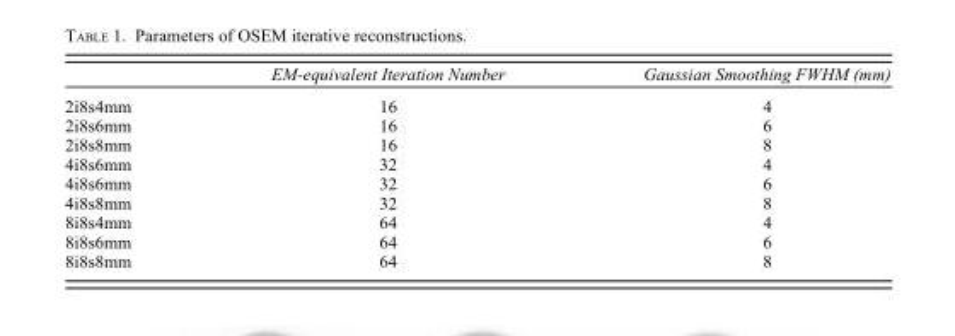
<table><thead><tr><td></td><td>EM-equivalent Iteration Number</td><td>Gaussian Smoothing FWHM (mm)</td></tr></thead><tbody><tr><td>2i8s4mm</td><td>16</td><td>4</td></tr><tr><td>2i8s6mm</td><td>16</td><td>6</td></tr><tr><td>2i8s8mm</td><td>16</td><td>8</td></tr><tr><td>4i8s6mm</td><td>32</td><td>4</td></tr><tr><td>4i8s6mm</td><td>32</td><td>6</td></tr><tr><td>4i8s8mm</td><td>32</td><td>8</td></tr><tr><td>8i8s4mm</td><td>64</td><td>4</td></tr><tr><td>8i8s6mm</td><td>64</td><td>6</td></tr><tr><td>8i8s8mm</td><td>64</td><td>8</td></tr></tbody></table>